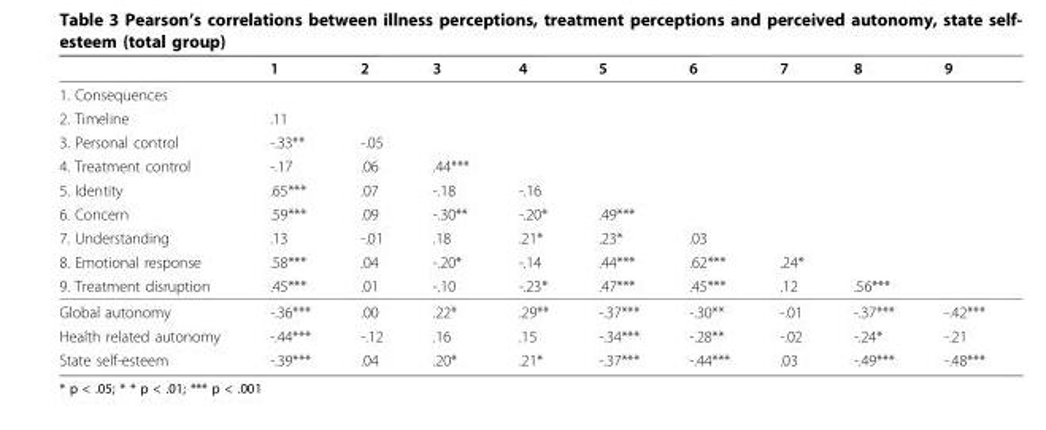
<table><thead><tr><td></td><td>1</td><td>2</td><td>3</td><td>4</td><td>5</td><td>6</td><td>7</td><td>8</td><td>9</td></tr></thead><tbody><tr><td colspan="10">1. Consequences</td></tr><tr><td>2. Timeline</td><td>.11</td><td></td><td></td><td></td><td></td><td></td><td></td><td></td><td></td></tr><tr><td>3. Personal control</td><td>-.33**</td><td>-.05</td><td></td><td></td><td></td><td></td><td></td><td></td><td></td></tr><tr><td>4. Treatment control</td><td>-.17</td><td>.06</td><td>.44***</td><td></td><td></td><td></td><td></td><td></td><td></td></tr><tr><td>5. Identity</td><td>.65***</td><td>.07</td><td>-.18</td><td>-.16</td><td></td><td></td><td></td><td></td><td></td></tr><tr><td>6. Concern</td><td>.59***</td><td>.09</td><td>-.30**</td><td>-.20*</td><td>.49***</td><td></td><td></td><td></td><td></td></tr><tr><td>7. Understanding</td><td>.13</td><td>-.01</td><td>.18</td><td>.21*</td><td>.23*</td><td>.03</td><td></td><td></td><td></td></tr><tr><td>8. Emotional response</td><td>.58***</td><td>.04</td><td>-.20*</td><td>-.14</td><td>.44***</td><td>.62***</td><td>.24*</td><td></td><td></td></tr><tr><td>9. Treatment disruption</td><td>.45***</td><td>.01</td><td>-.10</td><td>-.23*</td><td>.47***</td><td>.45***</td><td>.12</td><td>.56***</td><td></td></tr><tr><td>Global autonomy</td><td>-.36***</td><td>.00</td><td>.22*</td><td>.29**</td><td>-.37***</td><td>-.30**</td><td>-.01</td><td>-.37***</td><td>-.42***</td></tr><tr><td>Health related autonomy</td><td>-.44***</td><td>-.12</td><td>.16</td><td>.15</td><td>-.34***</td><td>-.28**</td><td>-.02</td><td>-.24*</td><td>-.21</td></tr><tr><td>State self-esteem</td><td>-.39***</td><td>.04</td><td>.20*</td><td>.21*</td><td>-.37***</td><td>-.44***</td><td>.03</td><td>-.49***</td><td>-.48***</td></tr></tbody></table>